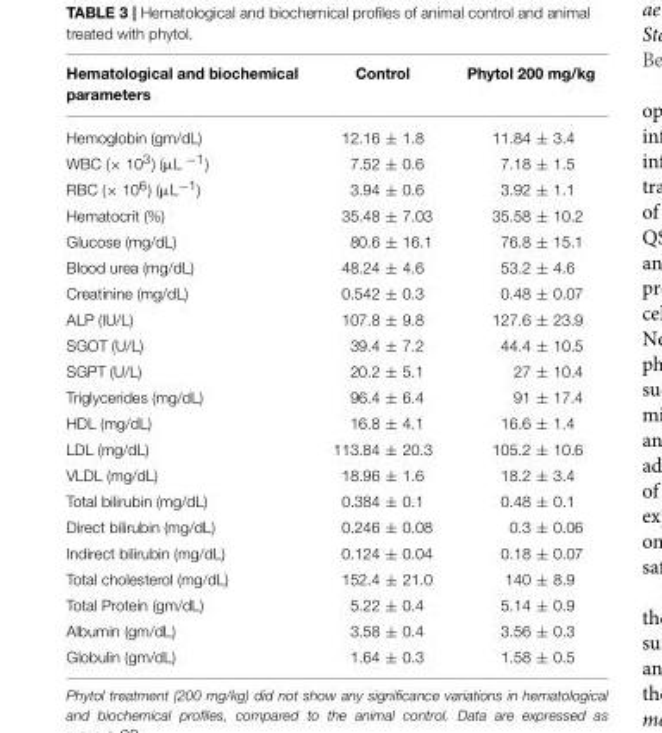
<table><thead><tr><td>Hematological and biochemical parameters</td><td>Control</td><td>Phytol 200 mg/kg</td></tr></thead><tbody><tr><td>Hemoglobin (gm/dL)</td><td>12.16 ± 1.8</td><td>11.84 ± 3.4</td></tr><tr><td>WBC (× 10<sup>3</sup>) (µL <sup>−1</sup>)</td><td>7.52 ± 0.6</td><td>7.18 ± 1.5</td></tr><tr><td>RBC (× 10<sup>6</sup>) (µL<sup>−1</sup>)</td><td>3.94 ± 0.6</td><td>3.92 ± 1.1</td></tr><tr><td>Hematocrit (%)</td><td>35.48 ± 7.03</td><td>35.58 ± 10.2</td></tr><tr><td>Glucose (mg/dL)</td><td>80.6 ± 16.1</td><td>76.8 ± 15.1</td></tr><tr><td>Blood urea (mg/dL)</td><td>48.24 ± 4.6</td><td>53.2 ± 4.6</td></tr><tr><td>Creatinine (mg/dL)</td><td>0.542 ± 0.3</td><td>0.48 ± 0.07</td></tr><tr><td>ALP (IU/L)</td><td>107.8 ± 9.8</td><td>127.6 ± 23.9</td></tr><tr><td>SGOT (U/L)</td><td>39.4 ± 7.2</td><td>44.4 ± 10.5</td></tr><tr><td>SGPT (U/L)</td><td>20.2 ± 5.1</td><td>27 ± 10.4</td></tr><tr><td>Triglycerides (mg/dL)</td><td>96.4 ± 6.4</td><td>91 ± 17.4</td></tr><tr><td>HDL (mg/dL)</td><td>16.8 ± 4.1</td><td>16.6 ± 1.4</td></tr><tr><td>LDL (mg/dL)</td><td>113.84 ± 20.3</td><td>105.2 ± 10.6</td></tr><tr><td>VLDL (mg/dL)</td><td>18.96 ± 1.6</td><td>18.2 ± 3.4</td></tr><tr><td>Total bilirubin (mg/dL)</td><td>0.384 ± 0.1</td><td>0.48 ± 0.1</td></tr><tr><td>Direct bilirubin (mg/dL)</td><td>0.246 ± 0.08</td><td>0.3 ± 0.06</td></tr><tr><td>Indirect bilirubin (mg/dL)</td><td>0.124 ± 0.04</td><td>0.18 ± 0.07</td></tr><tr><td>Total cholesterol (mg/dL)</td><td>152.4 ± 21.0</td><td>140 ± 8.9</td></tr><tr><td>Total Protein (gm/dL)</td><td>5.22 ± 0.4</td><td>5.14 ± 0.9</td></tr><tr><td>Albumin (gm/dL)</td><td>3.58 ± 0.4</td><td>3.56 ± 0.3</td></tr><tr><td>Globulin (gm/dL)</td><td>1.64 ± 0.3</td><td>1.58 ± 0.5</td></tr></tbody></table>